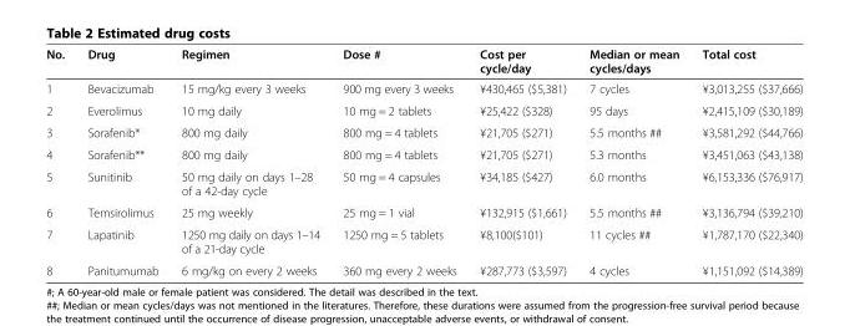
<table><thead><tr><td>No.</td><td>Drug</td><td>Regimen</td><td>Dose #</td><td>Cost per cycle/day</td><td>Median or mean cycles/days</td><td>Total cost</td></tr></thead><tbody><tr><td>1</td><td>Bevacizumab</td><td>15 mg/kg every 3 weeks</td><td>900 mg every 3 weeks</td><td>¥430,465 ($5,381)</td><td>7 cycles</td><td>¥3,013,255 ($37,666)</td></tr><tr><td>2</td><td>Everolimus</td><td>10 mg daily</td><td>10 mg = 2 tablets</td><td>¥25,422 ($328)</td><td>95 days</td><td>¥2,415,109 ($30,189)</td></tr><tr><td>3</td><td>Sorafenib*</td><td>800 mg daily</td><td>800 mg = 4 tablets</td><td>¥21,705 ($271)</td><td>5.5 months ##</td><td>¥3,581,292 ($44,766)</td></tr><tr><td>4</td><td>Sorafenib**</td><td>800 mg daily</td><td>800 mg = 4 tablets</td><td>¥21,705 ($271)</td><td>5.3 months</td><td>¥3,451,063 ($43,138)</td></tr><tr><td>5</td><td>Sunitinib</td><td>50 mg daily on days 1–28 of a 42-day cycle</td><td>50 mg = 4 capsules</td><td>¥34,185 ($427)</td><td>6.0 months</td><td>¥6,153,336 ($76,917)</td></tr><tr><td>6</td><td>Temsirolimus</td><td>25 mg weekly</td><td>25 mg = 1 vial</td><td>¥132,915 ($1,661)</td><td>5.5 months ##</td><td>¥3,136,794 ($39,210)</td></tr><tr><td>7</td><td>Lapatinib</td><td>1250 mg daily on days 1–14 of a 21-day cycle</td><td>1250 mg = 5 tablets</td><td>¥8,100($101)</td><td>11 cycles ##</td><td>¥1,787,170 ($22,340)</td></tr><tr><td>8</td><td>Panitumumab</td><td>6 mg/kg on every 2 weeks</td><td>360 mg every 2 weeks</td><td>¥287,773 ($3,597)</td><td>4 cycles</td><td>¥1,151,092 ($14,389)</td></tr></tbody></table>